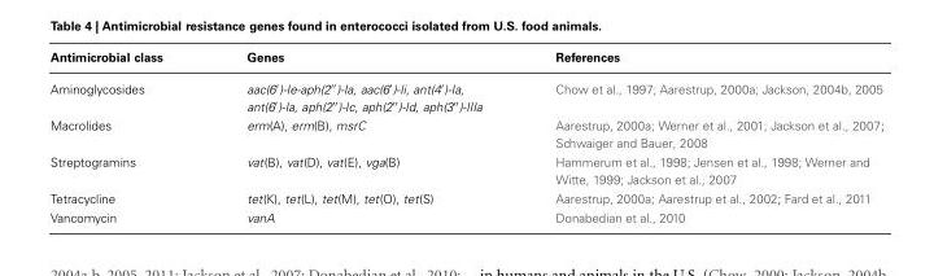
<table><thead><tr><td>Antimicrobial class</td><td>Genes</td><td>References</td></tr></thead><tbody><tr><td>Aminoglycosides</td><td>aac(6′)-Ie-aph(2′′)-Ia, aac(6′)-Ii, ant(4′)-Ia, ant(6′)-Ia, aph(2′′)-Ic, aph(2′′)-Id, aph(3′′)-IIIa</td><td>Chow et al., 1997; Aarestrup, 2000a; Jackson, 2004b, 2005</td></tr><tr><td>Macrolides</td><td>erm(A), erm(B), msrC</td><td>Aarestrup, 2000a; Werner et al., 2001; Jackson et al., 2007; Schwaiger and Bauer, 2008</td></tr><tr><td>Streptogramins</td><td>vat(B), vat(D), vat(E), vga(B)</td><td>Hammerum et al., 1998; Jensen et al., 1998; Werner and Witte, 1999; Jackson et al., 2007</td></tr><tr><td>Tetracycline</td><td>tet(K), tet(L), tet(M), tet(O), tet(S)</td><td>Aarestrup, 2000a; Aarestrup et al., 2002; Fard et al., 2011</td></tr><tr><td>Vancomycin</td><td>vanA</td><td>Donabedian et al., 2010</td></tr></tbody></table>